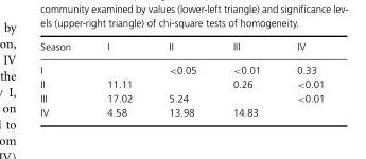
<table><thead><tr><td>Season</td><td>I</td><td>II</td><td>III</td><td>IV</td></tr></thead><tbody><tr><td>I</td><td></td><td>&lt;0.05</td><td>&lt;0.01</td><td>0.33</td></tr><tr><td>II</td><td>11.11</td><td></td><td>0.26</td><td>&lt;0.01</td></tr><tr><td>III</td><td>17.02</td><td>5.24</td><td></td><td>&lt;0.01</td></tr><tr><td>IV</td><td>4.58</td><td>13.98</td><td>14.83</td><td></td></tr></tbody></table>